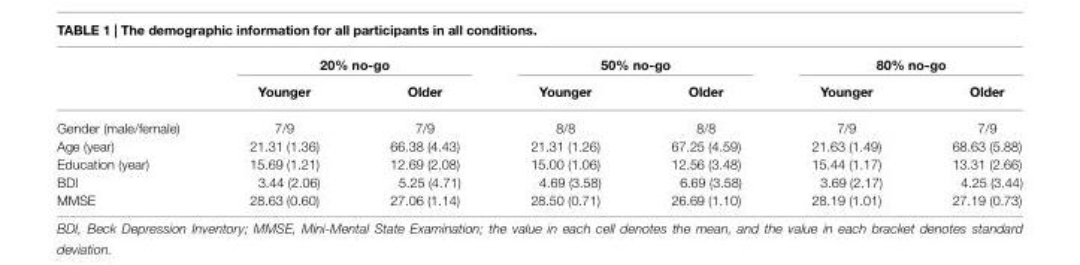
<table><thead><tr><td rowspan="2"></td><td colspan="2">20% no-go</td><td colspan="2">50% no-go</td><td colspan="2">80% no-go</td></tr><tr><td>Younger</td><td>Older</td><td>Younger</td><td>Older</td><td>Younger</td><td>Older</td></tr></thead><tbody><tr><td>Gender (male/female)</td><td>7/9</td><td>7/9</td><td>8/8</td><td>8/8</td><td>7/9</td><td>7/9</td></tr><tr><td>Age (year)</td><td>21.31 (1.36)</td><td>66.38 (4.43)</td><td>21.31 (1.26)</td><td>67.25 (4.59)</td><td>21.63 (1.49)</td><td>68.63 (5.88)</td></tr><tr><td>Education (year)</td><td>15.69 (1.21)</td><td>12.69 (2.08)</td><td>15.00 (1.06)</td><td>12.56 (3.48)</td><td>15.44 (1.17)</td><td>13.31 (2.66)</td></tr><tr><td>BDI</td><td>3.44 (2.06)</td><td>5.25 (4.71)</td><td>4.69 (3.58)</td><td>6.69 (3.58)</td><td>3.69 (2.17)</td><td>4.25 (3.44)</td></tr><tr><td>MMSE</td><td>28.63 (0.60)</td><td>27.06 (1.14)</td><td>28.50 (0.71)</td><td>26.69 (1.10)</td><td>28.19 (1.01)</td><td>27.19 (0.73)</td></tr></tbody></table>